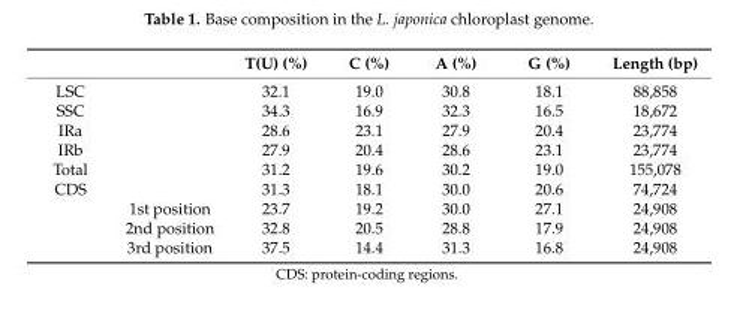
<table><thead><tr><td></td><td></td><td>T(U) (%)</td><td>C (%)</td><td>A (%)</td><td>G (%)</td><td>Length (bp)</td></tr></thead><tbody><tr><td>LSC</td><td></td><td>32.1</td><td>19.0</td><td>30.8</td><td>18.1</td><td>88,858</td></tr><tr><td>SSC</td><td></td><td>34.3</td><td>16.9</td><td>32.3</td><td>16.5</td><td>18,672</td></tr><tr><td>IRa</td><td></td><td>28.6</td><td>23.1</td><td>27.9</td><td>20.4</td><td>23,774</td></tr><tr><td>IRb</td><td></td><td>27.9</td><td>20.4</td><td>28.6</td><td>23.1</td><td>23,774</td></tr><tr><td>Total</td><td></td><td>31.2</td><td>19.6</td><td>30.2</td><td>19.0</td><td>155,078</td></tr><tr><td rowspan="4">CDS</td><td></td><td>31.3</td><td>18.1</td><td>30.0</td><td>20.6</td><td>74,724</td></tr><tr><td>1st position</td><td>23.7</td><td>19.2</td><td>30.0</td><td>27.1</td><td>24,908</td></tr><tr><td>2nd position</td><td>32.8</td><td>20.5</td><td>28.8</td><td>17.9</td><td>24,908</td></tr><tr><td>3rd position</td><td>37.5</td><td>14.4</td><td>31.3</td><td>16.8</td><td>24,908</td></tr></tbody></table>